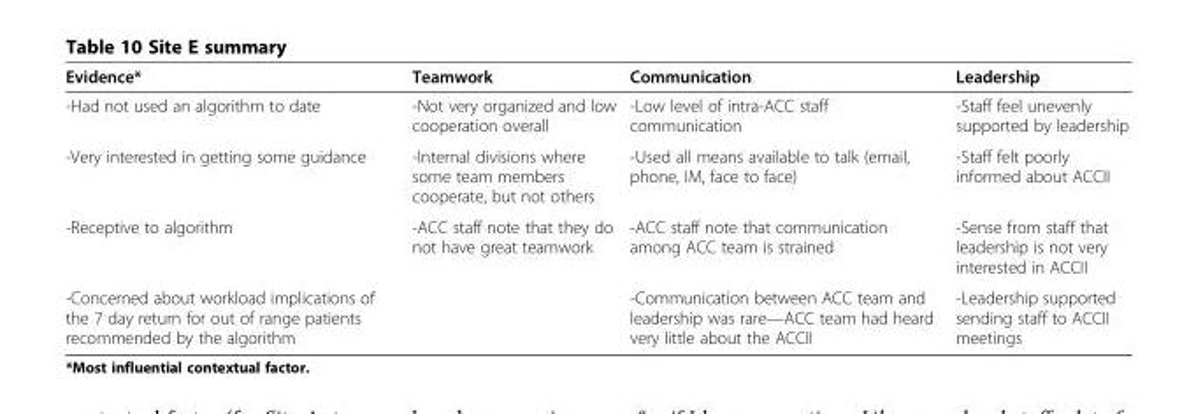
<table><thead><tr><td>Evidence*</td><td>Teamwork</td><td>Communication</td><td>Leadership</td></tr></thead><tbody><tr><td>-Had not used an algorithm to date</td><td>-Not very organized and low cooperation overall</td><td>-Low level of intra-ACC staff communication</td><td>-Staff feel unevenly supported by leadership</td></tr><tr><td>-Very interested in getting some guidance</td><td>-Internal divisions where some team members cooperate, but not others</td><td>-Used all means available to talk (email, phone, IM, face to face)</td><td>-Staff felt poorly informed about ACCII</td></tr><tr><td>-Receptive to algorithm</td><td>-ACC staff note that they do not have great teamwork</td><td>-ACC staff note that communication among ACC team is strained</td><td>-Sense from staff that leadership is not very interested in ACCII</td></tr><tr><td>-Concerned about workload implications of the 7 day return for out of range patients recommended by the algorithm</td><td></td><td>-Communication between ACC team and leadership was rare—ACC team had heard very little about the ACCII</td><td>-Leadership supported sending staff to ACCII meetings</td></tr></tbody></table>